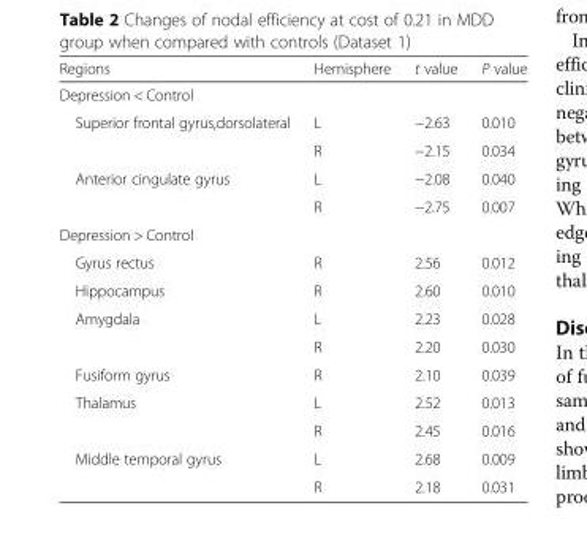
<table><thead><tr><td>Regions</td><td>Hemisphere</td><td>t value</td><td>P value</td></tr></thead><tbody><tr><td colspan="4">Depression &lt; Control</td></tr><tr><td rowspan="2">Superior frontal gyrus,dorsolateral</td><td>L</td><td>−2.63</td><td>0.010</td></tr><tr><td>R</td><td>−2.15</td><td>0.034</td></tr><tr><td rowspan="2">Anterior cingulate gyrus</td><td>L</td><td>−2.08</td><td>0.040</td></tr><tr><td>R</td><td>−2.75</td><td>0.007</td></tr><tr><td colspan="4">Depression &gt; Control</td></tr><tr><td>Gyrus rectus</td><td>R</td><td>2.56</td><td>0.012</td></tr><tr><td>Hippocampus</td><td>R</td><td>2.60</td><td>0.010</td></tr><tr><td rowspan="2">Amygdala</td><td>L</td><td>2.23</td><td>0.028</td></tr><tr><td>R</td><td>2.20</td><td>0.030</td></tr><tr><td>Fusiform gyrus</td><td>R</td><td>2.10</td><td>0.039</td></tr><tr><td rowspan="2">Thalamus</td><td>L</td><td>2.52</td><td>0.013</td></tr><tr><td>R</td><td>2.45</td><td>0.016</td></tr><tr><td rowspan="2">Middle temporal gyrus</td><td>L</td><td>2.68</td><td>0.009</td></tr><tr><td>R</td><td>2.18</td><td>0.031</td></tr></tbody></table>